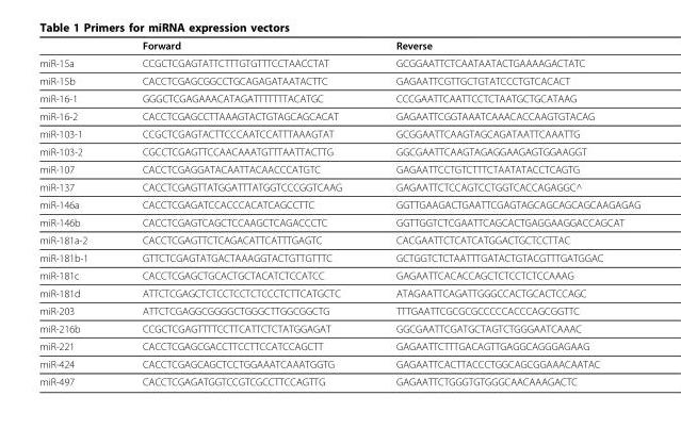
<table><thead><tr><td></td><td>Forward</td><td>Reverse</td></tr></thead><tbody><tr><td>miR-15a</td><td>CCGCTCGAGTATTCTTTGTGTTTCCTAACCTAT</td><td>GCGGAATTCTCAATAATACTGAAAAGACTATC</td></tr><tr><td>miR-15b</td><td>CACCTCGAGCGGCCTGCAGAGATAATACTTC</td><td>GAGAATTCGTTGCTGTATCCCTGTCACACT</td></tr><tr><td>miR-16-1</td><td>GGGCTCGAGAAACATAGATTTTTTTACATGC</td><td>CCCGAATTCAATTCCTCTAATGCTGCATAAG</td></tr><tr><td>miR-16-2</td><td>CACCTCGAGCCTTAAAGTACTGTAGCAGCACAT</td><td>GAGAATTCGGTAAATCAAACACCAAGTGTACAG</td></tr><tr><td>miR-103-1</td><td>CCGCTCGAGTACTTCCCAATCCATTTAAAGTAT</td><td>GCGGAATTCAAGTAGCAGATAATTCAAATTG</td></tr><tr><td>miR-103-2</td><td>CGCCTCGAGTTCCAACAAATGTTTAATTACTTG</td><td>GGCGAATTCAAGTAGAGGAAGAGTGGAAGGT</td></tr><tr><td>miR-107</td><td>CACCTCGAGGATACAATTACAACCCATGTC</td><td>GAGAATTCCTGTCTTTCTAATATACCTCAGTG</td></tr><tr><td>miR-137</td><td>CACCTCGAGTTATGGATTTATGGTCCCGGTCAAG</td><td>GAGAATTCTCCAGTCCTGGTCACCAGAGGC^</td></tr><tr><td>miR-146a</td><td>CACCTCGAGATCCACCCACATCAGCCTTC</td><td>GGTTGAAGACTGAATTCGAGTAGCAGCAGCAGCAAGAGAG</td></tr><tr><td>miR-146b</td><td>CACCTCGAGTCAGCTCCAAGCTCAGACCCTC</td><td>GGTTGGTCTCGAATTCAGCACTGAGGAAGGACCAGCAT</td></tr><tr><td>miR-181a-2</td><td>CACCTCGAGTTCTCAGACATTCATTTGAGTC</td><td>CACGAATTCTCATCATGGACTGCTCCTTAC</td></tr><tr><td>miR-181b-1</td><td>GTTCTCGAGTATGACTAAAGGTACTGTTGTTTC</td><td>GCTGGTCTCTAATTTGATACTGTACGTTTGATGGAC</td></tr><tr><td>miR-181c</td><td>CACCTCGAGCTGCACTGCTACATCTCCATCC</td><td>GAGAATTCACACCAGCTCTCCTCTCCAAAG</td></tr><tr><td>miR-181d</td><td>ATTCTCGAGCTCTCCTCCTCTCCCTCTTCATGCTC</td><td>ATAGAATTCAGATTGGGCCACTGCACTCCAGC</td></tr><tr><td>miR-203</td><td>ATTCTCGAGGCGGGGCTGGGCTTGGCGGCTG</td><td>TTTGAATTCGCGCGCCCCCACCCAGCGGTTC</td></tr><tr><td>miR-216b</td><td>CCGCTCGAGTTTTCCTTCATTCTCTATGGAGAT</td><td>GGCGAATTCGATGCTAGTCTGGGAATCAAAC</td></tr><tr><td>miR-221</td><td>CACCTCGAGCGACCTTCCTTCCATCCAGCTT</td><td>GAGAATTCTTTGACAGTTGAGGCAGGGAGAAG</td></tr><tr><td>miR-424</td><td>CACCTCGAGCAGCTCCTGGAAATCAAATGGTG</td><td>GAGAATTCACTTACCCTGGCAGCGGAAACAATAC</td></tr><tr><td>miR-497</td><td>CACCTCGAGATGGTCCGTCGCCTTCCAGTTG</td><td>GAGAATTCTGGGTGTGGGCAACAAAGACTC</td></tr></tbody></table>